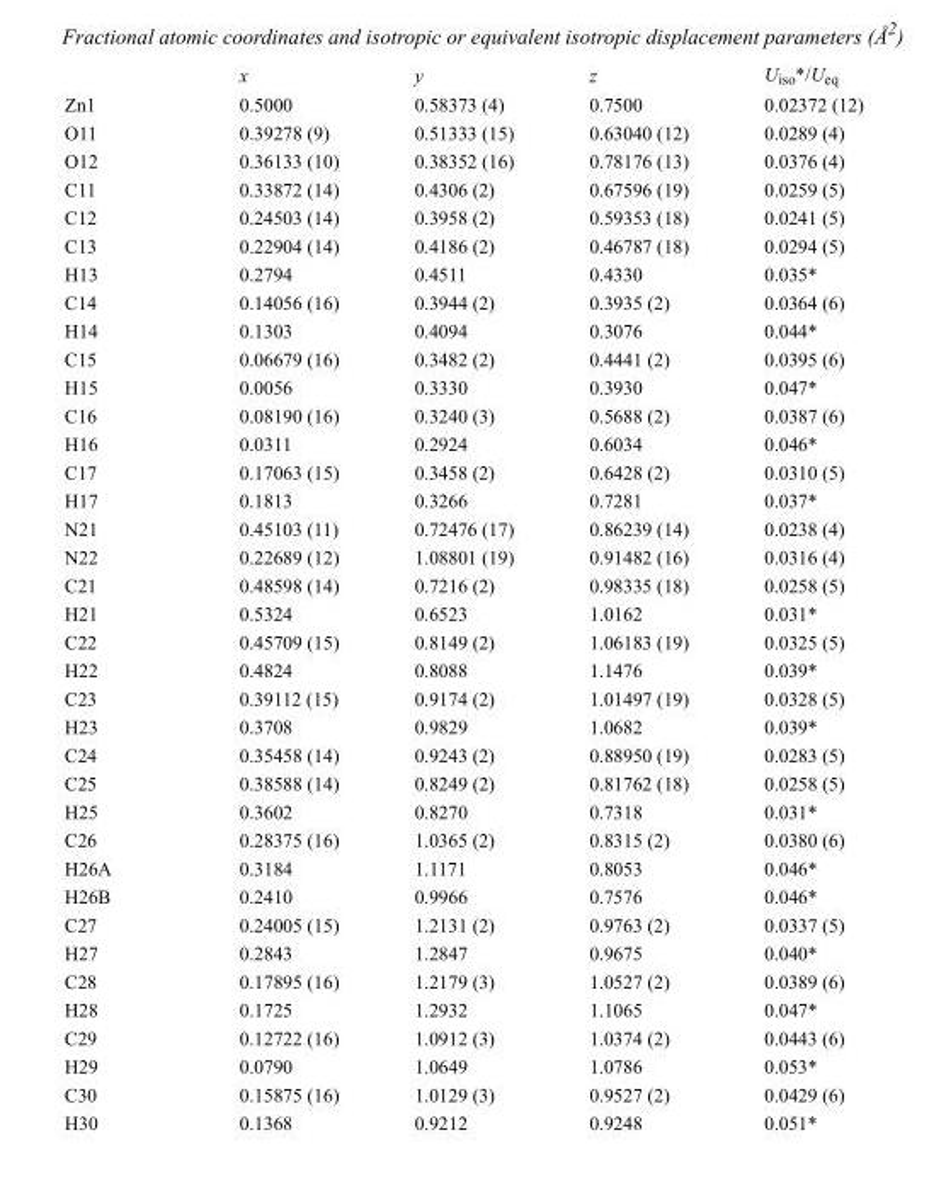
<table><thead><tr><td></td><td>x</td><td>y</td><td>z</td><td>U<sub>iso</sub>*/U<sub>eq</sub></td></tr></thead><tbody><tr><td>Zn1</td><td>0.5000</td><td>0.58373 (4)</td><td>0.7500</td><td>0.02372 (12)</td></tr><tr><td>O11</td><td>0.39278 (9)</td><td>0.51333 (15)</td><td>0.63040 (12)</td><td>0.0289 (4)</td></tr><tr><td>O12</td><td>0.36133 (10)</td><td>0.38352 (16)</td><td>0.78176 (13)</td><td>0.0376 (4)</td></tr><tr><td>C11</td><td>0.33872 (14)</td><td>0.4306 (2)</td><td>0.67596 (19)</td><td>0.0259 (5)</td></tr><tr><td>C12</td><td>0.24503 (14)</td><td>0.3958 (2)</td><td>0.59353 (18)</td><td>0.0241 (5)</td></tr><tr><td>C13</td><td>0.22904 (14)</td><td>0.4186 (2)</td><td>0.46787 (18)</td><td>0.0294 (5)</td></tr><tr><td>H13</td><td>0.2794</td><td>0.4511</td><td>0.4330</td><td>0.035*</td></tr><tr><td>C14</td><td>0.14056 (16)</td><td>0.3944 (2)</td><td>0.3935 (2)</td><td>0.0364 (6)</td></tr><tr><td>H14</td><td>0.1303</td><td>0.4094</td><td>0.3076</td><td>0.044*</td></tr><tr><td>C15</td><td>0.06679 (16)</td><td>0.3482 (2)</td><td>0.4441 (2)</td><td>0.0395 (6)</td></tr><tr><td>H15</td><td>0.0056</td><td>0.3330</td><td>0.3930</td><td>0.047*</td></tr><tr><td>C16</td><td>0.08190 (16)</td><td>0.3240 (3)</td><td>0.5688 (2)</td><td>0.0387 (6)</td></tr><tr><td>H16</td><td>0.0311</td><td>0.2924</td><td>0.6034</td><td>0.046*</td></tr><tr><td>C17</td><td>0.17063 (15)</td><td>0.3458 (2)</td><td>0.6428 (2)</td><td>0.0310 (5)</td></tr><tr><td>H17</td><td>0.1813</td><td>0.3266</td><td>0.7281</td><td>0.037*</td></tr><tr><td>N21</td><td>0.45103 (11)</td><td>0.72476 (17)</td><td>0.86239 (14)</td><td>0.0238 (4)</td></tr><tr><td>N22</td><td>0.22689 (12)</td><td>1.08801 (19)</td><td>0.91482 (16)</td><td>0.0316 (4)</td></tr><tr><td>C21</td><td>0.48598 (14)</td><td>0.7216 (2)</td><td>0.98335 (18)</td><td>0.0258 (5)</td></tr><tr><td>H21</td><td>0.5324</td><td>0.6523</td><td>1.0162</td><td>0.031*</td></tr><tr><td>C22</td><td>0.45709 (15)</td><td>0.8149 (2)</td><td>1.06183 (19)</td><td>0.0325 (5)</td></tr><tr><td>H22</td><td>0.4824</td><td>0.8088</td><td>1.1476</td><td>0.039*</td></tr><tr><td>C23</td><td>0.39112 (15)</td><td>0.9174 (2)</td><td>1.01497 (19)</td><td>0.0328 (5)</td></tr><tr><td>H23</td><td>0.3708</td><td>0.9829</td><td>1.0682</td><td>0.039*</td></tr><tr><td>C24</td><td>0.35458 (14)</td><td>0.9243 (2)</td><td>0.88950 (19)</td><td>0.0283 (5)</td></tr><tr><td>C25</td><td>0.38588 (14)</td><td>0.8249 (2)</td><td>0.81762 (18)</td><td>0.0258 (5)</td></tr><tr><td>H25</td><td>0.3602</td><td>0.8270</td><td>0.7318</td><td>0.031*</td></tr><tr><td>C26</td><td>0.28375 (16)</td><td>1.0365 (2)</td><td>0.8315 (2)</td><td>0.0380 (6)</td></tr><tr><td>H26A</td><td>0.3184</td><td>1.1171</td><td>0.8053</td><td>0.046*</td></tr><tr><td>H26B</td><td>0.2410</td><td>0.9966</td><td>0.7576</td><td>0.046*</td></tr><tr><td>C27</td><td>0.24005 (15)</td><td>1.2131 (2)</td><td>0.9763 (2)</td><td>0.0337 (5)</td></tr><tr><td>H27</td><td>0.2843</td><td>1.2847</td><td>0.9675</td><td>0.040*</td></tr><tr><td>C28</td><td>0.17895 (16)</td><td>1.2179 (3)</td><td>1.0527 (2)</td><td>0.0389 (6)</td></tr><tr><td>H28</td><td>0.1725</td><td>1.2932</td><td>1.1065</td><td>0.047*</td></tr><tr><td>C29</td><td>0.12722 (16)</td><td>1.0912 (3)</td><td>1.0374 (2)</td><td>0.0443 (6)</td></tr><tr><td>H29</td><td>0.0790</td><td>1.0649</td><td>1.0786</td><td>0.053*</td></tr><tr><td>C30</td><td>0.15875 (16)</td><td>1.0129 (3)</td><td>0.9527 (2)</td><td>0.0429 (6)</td></tr><tr><td>H30</td><td>0.1368</td><td>0.9212</td><td>0.9248</td><td>0.051*</td></tr></tbody></table>